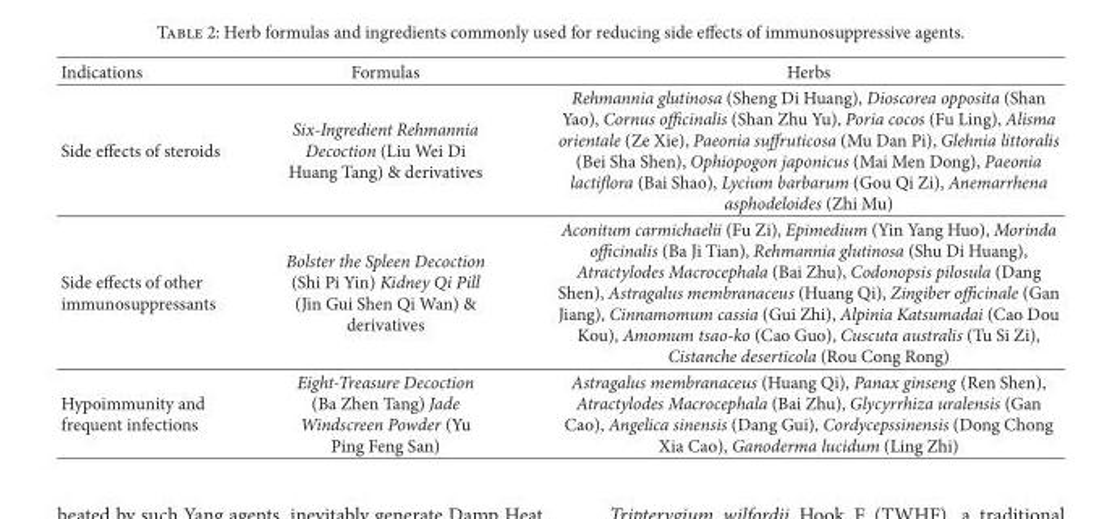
<table><thead><tr><td>Indications</td><td>Formulas</td><td>Herbs</td></tr></thead><tbody><tr><td>Side effects of steroids</td><td>Six-Ingredient Rehmannia Decoction (Liu Wei Di Huang Tang) &amp; derivatives</td><td>Rehmannia glutinosa (Sheng Di Huang), Dioscorea opposita (Shan Yao), Cornus officinalis (Shan Zhu Yu), Poria cocos (Fu Ling), Alisma orientale (Ze Xie), Paeonia suffruticosa (Mu Dan Pi), Glehnia littoralis (Bei Sha Shen), Ophiopogon japonicus (Mai Men Dong), Paeonia lactiflora (Bai Shao), Lycium barbarum (Gou Qi Zi), Anemarrhena asphodeloides (Zhi Mu)</td></tr><tr><td>Side effects of other immunosuppressants</td><td>Bolster the Spleen Decoction (Shi Pi Yin) Kidney Qi Pill (Jin Gui Shen Qi Wan) &amp; derivatives</td><td>Aconitum carmichaelii (Fu Zi), Epimedium (Yin Yang Huo), Morinda officinalis (Ba Ji Tian), Rehmannia glutinosa (Shu Di Huang), Atractylodes Macrocephala (Bai Zhu), Codonopsis pilosula (Dang Shen), Astragalus membranaceus (Huang Qi), Zingiber officinale (Gan Jiang), Cinnamomum cassia (Gui Zhi), Alpinia Katsumadai (Cao Dou Kou), Amomum tsao-ko (Cao Guo), Cuscuta australis (Tu Si Zi), Cistanche deserticola (Rou Cong Rong)</td></tr><tr><td>Hypoimmunity and frequent infections</td><td>Eight-Treasure Decoction (Ba Zhen Tang) Jade Windscreen Powder (Yu Ping Feng San)</td><td>Astragalus membranaceus (Huang Qi), Panax ginseng (Ren Shen), Atractylodes Macrocephala (Bai Zhu), Glycyrrhiza uralensis (Gan Cao), Angelica sinensis (Dang Gui), Cordycepssinensis (Dong Chong Xia Cao), Ganoderma lucidum (Ling Zhi)</td></tr></tbody></table>